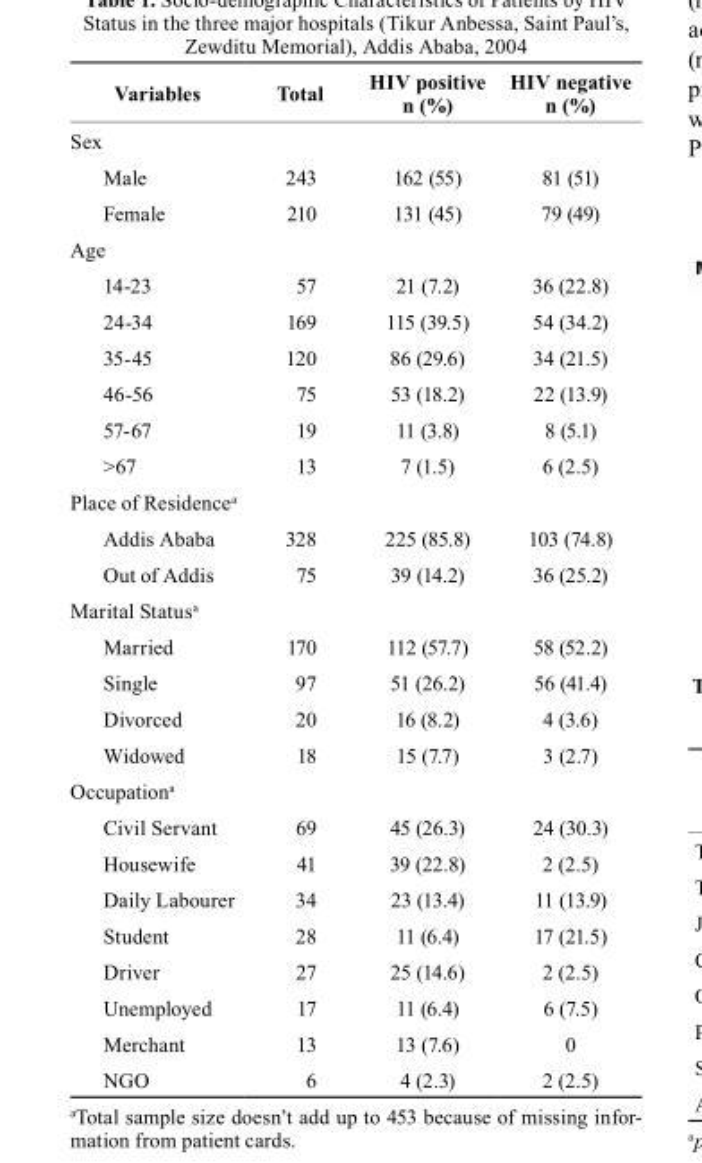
<table><thead><tr><td>Variables</td><td>total</td><td>HIV positive n (%)</td><td>HIV negative n (%)</td></tr></thead><tbody><tr><td colspan="4">Sex</td></tr><tr><td>Male</td><td>243</td><td>162 (55)</td><td>81 (51)</td></tr><tr><td>Female</td><td>210</td><td>131 (45)</td><td>79 (49)</td></tr><tr><td colspan="4">Age</td></tr><tr><td>14-23</td><td>57</td><td>21 (7.2)</td><td>36 (22.8)</td></tr><tr><td>24-34</td><td>169</td><td>115 (39.5)</td><td>54 (34.2)</td></tr><tr><td>35-45</td><td>120</td><td>86 (29.6)</td><td>34 (21.5)</td></tr><tr><td>46-56</td><td>75</td><td>53 (18.2)</td><td>22 (13.9)</td></tr><tr><td>57-67</td><td>19</td><td>11 (3.8)</td><td>8 (5.1)</td></tr><tr><td>&gt;67</td><td>13</td><td>7 (1.5)</td><td>6 (2.5)</td></tr><tr><td colspan="4">Place of Residencea</td></tr><tr><td>Addis Ababa</td><td>328</td><td>225 (85.8)</td><td>103 (74.8)</td></tr><tr><td>Out of Addis</td><td>75</td><td>39 (14.2)</td><td>36 (25.2)</td></tr><tr><td colspan="4">Marital Statusa</td></tr><tr><td>Married</td><td>170</td><td>112 (57.7)</td><td>58 (52.2)</td></tr><tr><td>Single</td><td>97</td><td>51 (26.2)</td><td>56 (41.4)</td></tr><tr><td>Divorced</td><td>20</td><td>16 (8.2)</td><td>4 (3.6)</td></tr><tr><td>Widowed</td><td>18</td><td>15 (7.7)</td><td>3 (2.7)</td></tr><tr><td colspan="4">Occupation<sup>a</sup></td></tr><tr><td>Civil Servant</td><td>69</td><td>45 (26.3)</td><td>24 (30.3)</td></tr><tr><td>Housewife</td><td>41</td><td>39 (22.8)</td><td>2 (2.5)</td></tr><tr><td>Daily Labourer</td><td>34</td><td>23 (13.4)</td><td>11 (13.9)</td></tr><tr><td>Student</td><td>28</td><td>11 (6.4)</td><td>17 (21.5)</td></tr><tr><td>Driver</td><td>27</td><td>25 (14.6)</td><td>2 (2.5)</td></tr><tr><td>Unemployed</td><td>17</td><td>11 (6.4)</td><td>6 (7.5)</td></tr><tr><td>Merchant</td><td>13</td><td>13 (7.6)</td><td>0</td></tr><tr><td>NGO</td><td>6</td><td>4 (2.3)</td><td>2 (2.5)</td></tr></tbody></table>